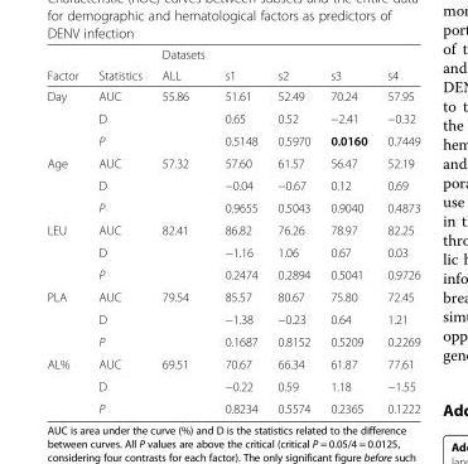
<table><thead><tr><td rowspan="2">Factor</td><td rowspan="2">Statistics</td><td rowspan="2">Datasets ALL</td><td rowspan="2">s1</td><td rowspan="2">s2</td><td rowspan="2">s3</td><td rowspan="2">s4</td></tr><tr></tr></thead><tbody><tr><td rowspan="3">Day</td><td>AUC</td><td>55.86</td><td>51.61</td><td>52.49</td><td>70.24</td><td>57.95</td></tr><tr><td>D</td><td></td><td>0.65</td><td>0.52</td><td>−2.41</td><td>−0.32</td></tr><tr><td>P</td><td></td><td>0.5148</td><td>0.5970</td><td>0.0160</td><td>0.7449</td></tr><tr><td rowspan="3">Age</td><td>AUC</td><td>57.32</td><td>57.60</td><td>61.57</td><td>56.47</td><td>52.19</td></tr><tr><td>D</td><td></td><td>−0.04</td><td>−0.67</td><td>0.12</td><td>0.69</td></tr><tr><td>P</td><td></td><td>0.9655</td><td>0.5043</td><td>0.9040</td><td>0.4873</td></tr><tr><td rowspan="3">LEU</td><td>AUC</td><td>82.41</td><td>86.82</td><td>76.26</td><td>78.97</td><td>82.25</td></tr><tr><td>D</td><td></td><td>−1.16</td><td>1.06</td><td>0.67</td><td>0.03</td></tr><tr><td>P</td><td></td><td>0.2474</td><td>0.2894</td><td>0.5041</td><td>0.9726</td></tr><tr><td rowspan="3">PLA</td><td>AUC</td><td>79.54</td><td>85.57</td><td>80.67</td><td>75.80</td><td>72.45</td></tr><tr><td>D</td><td></td><td>−1.38</td><td>−0.23</td><td>0.64</td><td>1.21</td></tr><tr><td>P</td><td></td><td>0.1687</td><td>0.8152</td><td>0.5209</td><td>0.2269</td></tr><tr><td rowspan="3">AL%</td><td>AUC</td><td>69.51</td><td>70.67</td><td>66.34</td><td>61.87</td><td>77.61</td></tr><tr><td>D</td><td></td><td>−0.22</td><td>0.59</td><td>1.18</td><td>−1.55</td></tr><tr><td>P</td><td></td><td>0.8234</td><td>0.5574</td><td>0.2365</td><td>0.1222</td></tr></tbody></table>